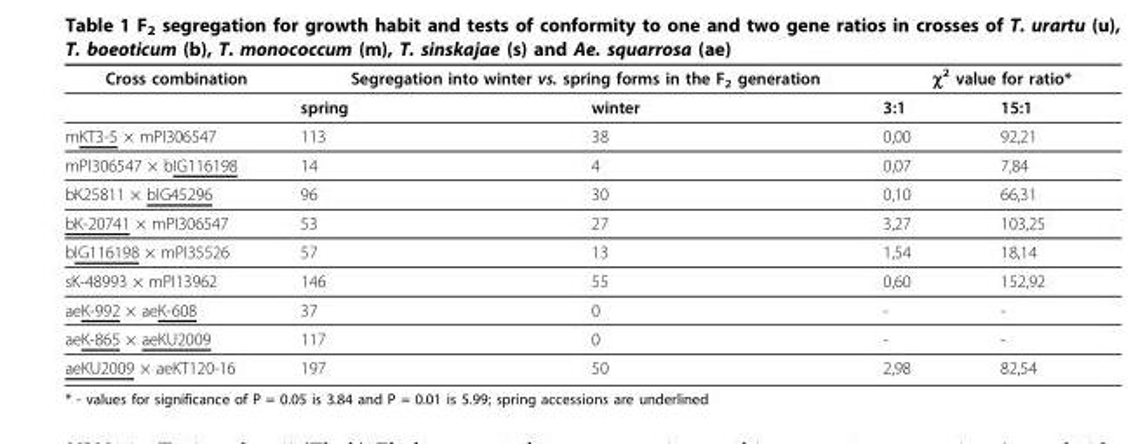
<table><thead><tr><td rowspan="2">Cross combination</td><td colspan="2">Segregation into winter vs. spring forms in the F<sub>2</sub> generation</td><td colspan="2">χ<sup>2</sup> value for ratio*</td></tr><tr><td>spring</td><td>winter</td><td>3:1</td><td>15:1</td></tr></thead><tbody><tr><td>mKT3-5 × mPI306547</td><td>113</td><td>38</td><td>0,00</td><td>92,21</td></tr><tr><td>mPI306547 × bIG116198</td><td>14</td><td>4</td><td>0,07</td><td>7,84</td></tr><tr><td>bK25811 × bIG45296</td><td>96</td><td>30</td><td>0,10</td><td>66,31</td></tr><tr><td>bK-20741 × mPI306547</td><td>53</td><td>27</td><td>3,27</td><td>103,25</td></tr><tr><td>bIG116198 × mPI35526</td><td>57</td><td>13</td><td>1,54</td><td>18,14</td></tr><tr><td>sK-48993 × mPI13962</td><td>146</td><td>55</td><td>0,60</td><td>152,92</td></tr><tr><td>aeK-992 × aeK-608</td><td>37</td><td>0</td><td>-</td><td>-</td></tr><tr><td>aeK-865 × aeKU2009</td><td>117</td><td>0</td><td>-</td><td>-</td></tr><tr><td>aeKU2009 × aeKT120-16</td><td>197</td><td>50</td><td>2,98</td><td>82,54</td></tr></tbody></table>